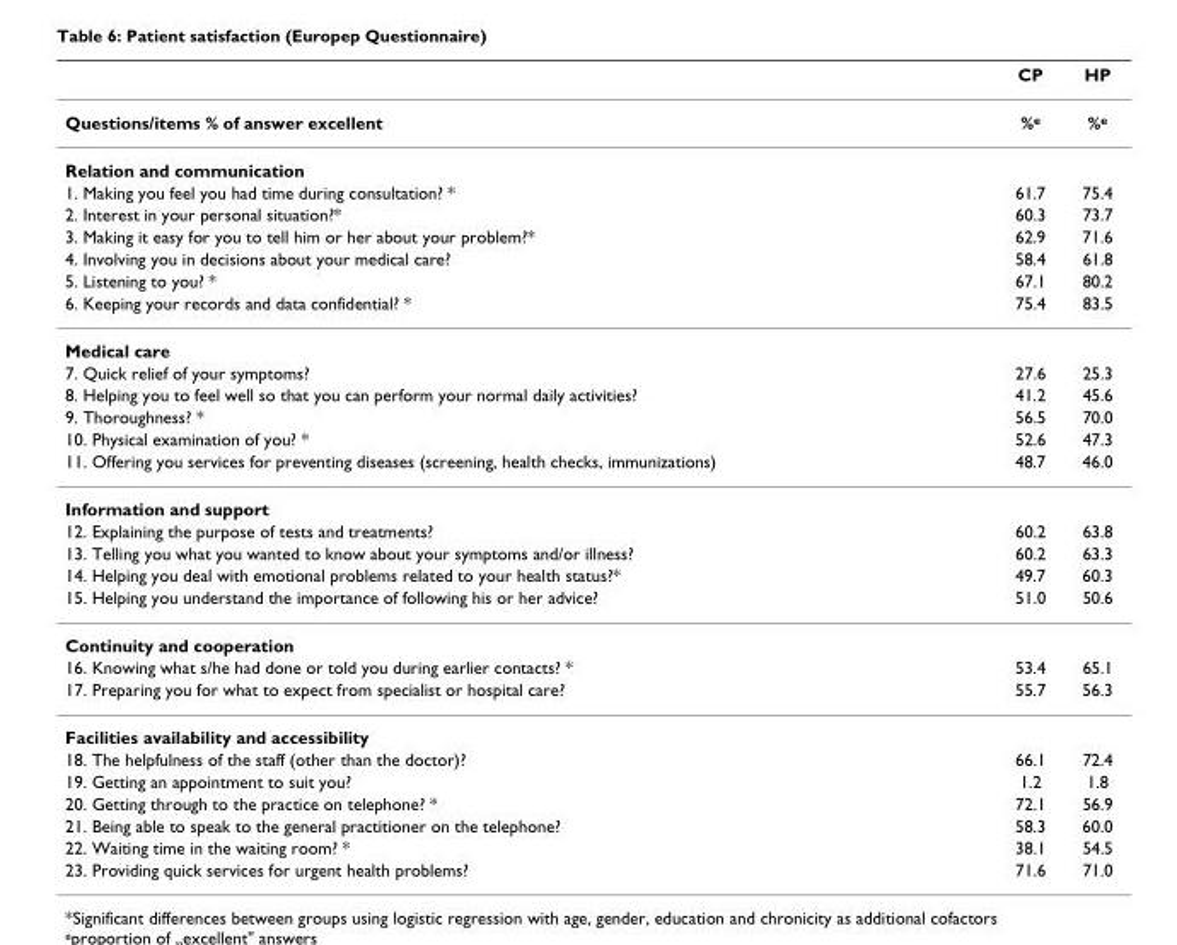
<table><thead><tr><td></td><td>CP</td><td>HP</td></tr></thead><tbody><tr><td>Questions/items % of answer excellent</td><td>%<sup>e</sup></td><td>%<sup>e</sup></td></tr><tr><td colspan="3">Relation and communication</td></tr><tr><td>1. Making you feel you had time during consultation? *</td><td>61.7</td><td>75.4</td></tr><tr><td>2. Interest in your personal situation?*</td><td>60.3</td><td>73.7</td></tr><tr><td>3. Making it easy for you to tell him or her about your problem?*</td><td>62.9</td><td>71.6</td></tr><tr><td>4. Involving you in decisions about your medical care?</td><td>58.4</td><td>61.8</td></tr><tr><td>5. Listening to you? *</td><td>67.1</td><td>80.2</td></tr><tr><td>6. Keeping your records and data confidential? *</td><td>75.4</td><td>83.5</td></tr><tr><td colspan="3">Medical care</td></tr><tr><td>7. Quick relief of your symptoms?</td><td>27.6</td><td>25.3</td></tr><tr><td>8. Helping you to feel well so that you can perform your normal daily activities?</td><td>41.2</td><td>45.6</td></tr><tr><td>9. Thoroughness? *</td><td>56.5</td><td>70.0</td></tr><tr><td>10. Physical examination of you? *</td><td>52.6</td><td>47.3</td></tr><tr><td>11. Offering you services for preventing diseases (screening, health checks, immunizations)</td><td>48.7</td><td>46.0</td></tr><tr><td colspan="3">Information and support</td></tr><tr><td>12. Explaining the purpose of tests and treatments?</td><td>60.2</td><td>63.8</td></tr><tr><td>13. Telling you what you wanted to know about your symptoms and/or illness?</td><td>60.2</td><td>63.3</td></tr><tr><td>14. Helping you deal with emotional problems related to your health status?*</td><td>49.7</td><td>60.3</td></tr><tr><td>15. Helping you understand the importance of following his or her advice?</td><td>51.0</td><td>50.6</td></tr><tr><td colspan="3">Continuity and cooperation</td></tr><tr><td>16. Knowing what s/he had done or told you during earlier contacts? *</td><td>53.4</td><td>65.1</td></tr><tr><td>17. Preparing you for what to expect from specialist or hospital care?</td><td>55.7</td><td>56.3</td></tr><tr><td colspan="3">Facilities availability and accessibility</td></tr><tr><td>18. The helpfulness of the staff (other than the doctor)?</td><td>66.1</td><td>72.4</td></tr><tr><td>19. Getting an appointment to suit you?</td><td>1.2</td><td>1.8</td></tr><tr><td>20. Getting through to the practice on telephone? *</td><td>72.1</td><td>56.9</td></tr><tr><td>21. Being able to speak to the general practitioner on the telephone?</td><td>58.3</td><td>60.0</td></tr><tr><td>22. Waiting time in the waiting room? *</td><td>38.1</td><td>54.5</td></tr><tr><td>23. Providing quick services for urgent health problems?</td><td>71.6</td><td>71.0</td></tr></tbody></table>